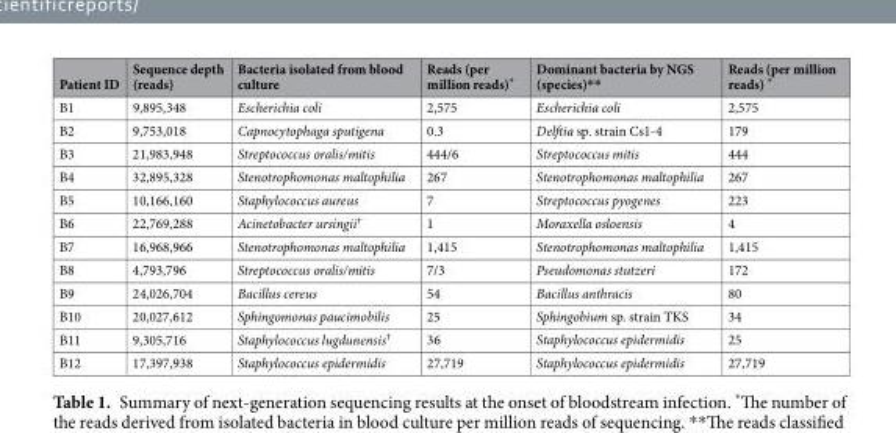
<table><thead><tr><td>Patient ID</td><td>Sequence depth (reads)</td><td>Bacteria isolated from blood culture</td><td>Reads (per million reads)*</td><td>Dominant bacteria by NGS (species)**</td><td>Reads (per million reads) *</td></tr></thead><tbody><tr><td>B1</td><td>9,895,348</td><td>Escherichia coli</td><td>2,575</td><td>Escherichia coli</td><td>2,575</td></tr><tr><td>B2</td><td>9,753,018</td><td>Capnocytophaga sputigena</td><td>0.3</td><td>Delftia sp. strain Cs1-4</td><td>179</td></tr><tr><td>B3</td><td>21,983,948</td><td>Streptococcus oralis/mitis</td><td>444/6</td><td>Streptococcus mitis</td><td>444</td></tr><tr><td>B4</td><td>32,895,328</td><td>Stenotrophomonas maltophilia</td><td>267</td><td>Stenotrophomonas maltophilia</td><td>267</td></tr><tr><td>B5</td><td>10,166,160</td><td>Staphylococcus aureus</td><td>7</td><td>Streptococcus pyogenes</td><td>223</td></tr><tr><td>B6</td><td>22,769,288</td><td>Acinetobacter ursingii<sup>†</sup></td><td>1</td><td>Moraxella osloensis</td><td>4</td></tr><tr><td>B7</td><td>16,968,966</td><td>Stenotrophomonas maltophilia</td><td>1,415</td><td>Stenotrophomonas maltophilia</td><td>1,415</td></tr><tr><td>B8</td><td>4,793,796</td><td>Streptococcus oralis/mitis</td><td>7/3</td><td>Pseudomonas stutzeri</td><td>172</td></tr><tr><td>B9</td><td>24,026,704</td><td>Bacillus cereus</td><td>54</td><td>Bacillus anthracis</td><td>80</td></tr><tr><td>B10</td><td>20,027,612</td><td>Sphingomonas paucimobilis</td><td>25</td><td>Sphingobium sp. strain TKS</td><td>34</td></tr><tr><td>B11</td><td>9,305,716</td><td>Staphylococcus lugdunensis<sup>†</sup></td><td>36</td><td>Staphylococcus epidermidis</td><td>25</td></tr><tr><td>B12</td><td>17,397,938</td><td>Staphylococcus epidermidis</td><td>27,719</td><td>Staphylococcus epidermidis</td><td>27,719</td></tr></tbody></table>